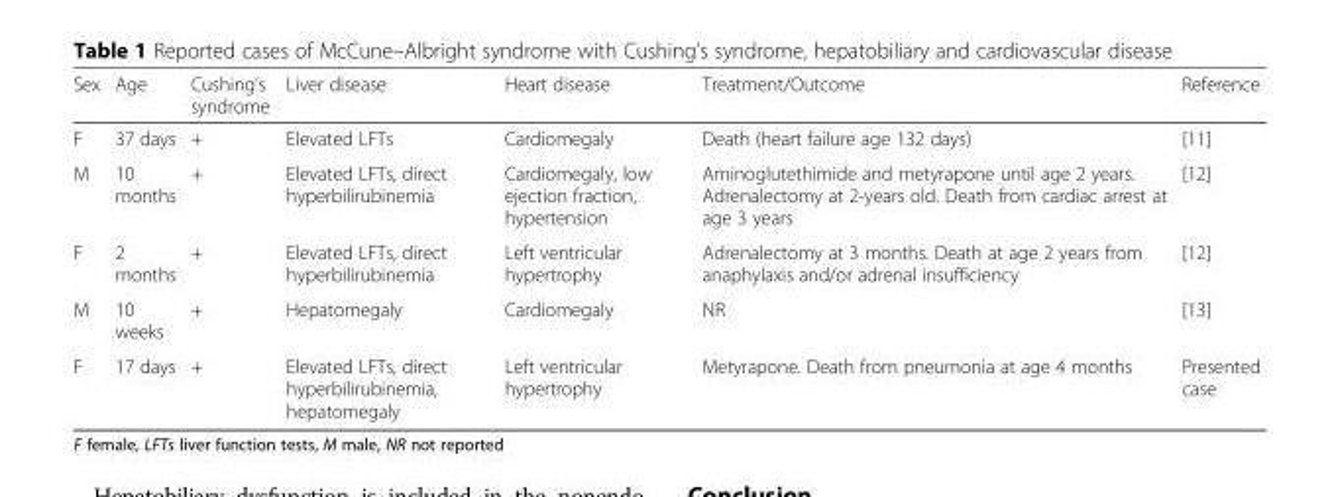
<table><thead><tr><td>Sex</td><td>Age</td><td>Cushing’s syndrome</td><td>Liver disease</td><td>Heart disease</td><td>Treatment/Outcome</td><td>Reference</td></tr></thead><tbody><tr><td>F</td><td>37 days</td><td>+</td><td>Elevated LFTs</td><td>Cardiomegaly</td><td>Death (heart failure age 132 days)</td><td>[11]</td></tr><tr><td>M</td><td>10 months</td><td>+</td><td>Elevated LFTs, direct hyperbilirubinemia</td><td>Cardiomegaly, low ejection fraction, hypertension</td><td>Aminoglutethimide and metyrapone until age 2 years. Adrenalectomy at 2-years old. Death from cardiac arrest at age 3 years</td><td>[12]</td></tr><tr><td>F</td><td>2 months</td><td>+</td><td>Elevated LFTs, direct hyperbilirubinemia</td><td>Left ventricular hypertrophy</td><td>Adrenalectomy at 3 months. Death at age 2 years from anaphylaxis and/or adrenal insufficiency</td><td>[12]</td></tr><tr><td>M</td><td>10 weeks</td><td>+</td><td>Hepatomegaly</td><td>Cardiomegaly</td><td>NR</td><td>[13]</td></tr><tr><td>F</td><td>17 days</td><td>+</td><td>Elevated LFTs, direct hyperbilirubinemia, hepatomegaly</td><td>Left ventricular hypertrophy</td><td>Metyrapone. Death from pneumonia at age 4 months</td><td>Presented case</td></tr></tbody></table>